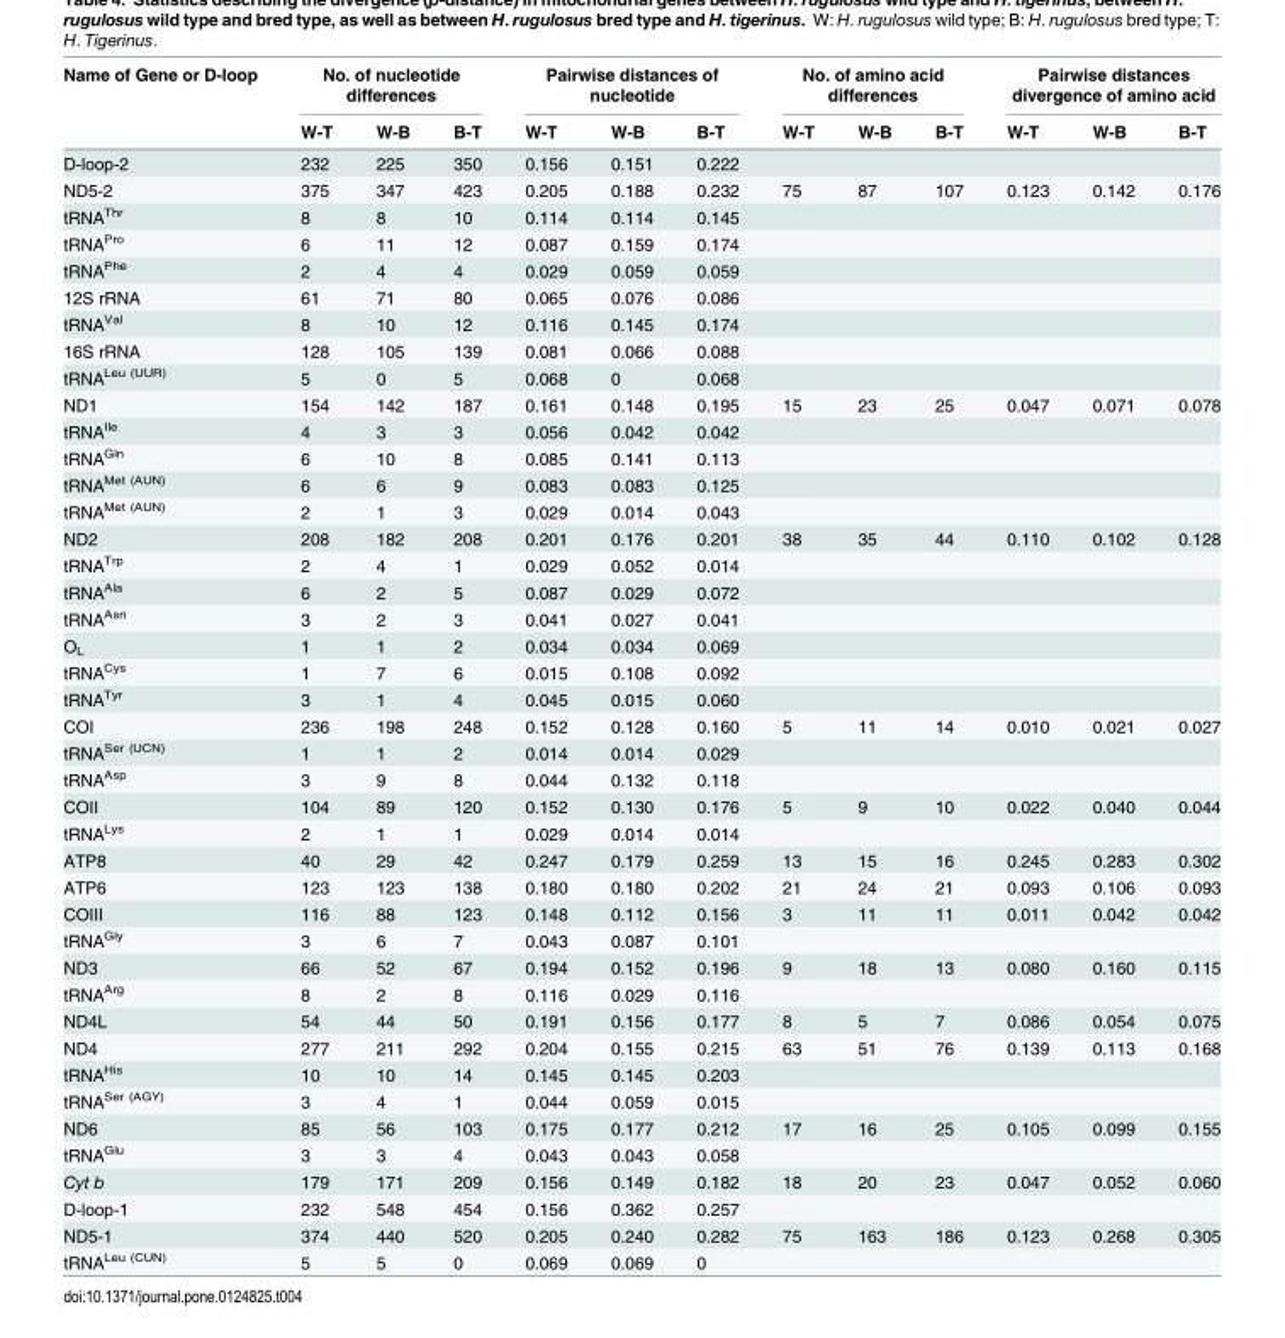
<table><thead><tr><td rowspan="2">Name of Gene or D-loop</td><td colspan="3">No. of nucleotide differences</td><td colspan="3">Pairwise distances of nucleotide</td><td colspan="3">No. of amino acid differences</td><td colspan="3">Pairwise distances divergence of amino acid</td></tr><tr><td>W-T</td><td>W-B</td><td>B-T</td><td>W-T</td><td>W-B</td><td>B-T</td><td>W-T</td><td>W-B</td><td>B-T</td><td>W-T</td><td>W-B</td><td>B-T</td></tr></thead><tbody><tr><td>D-loop-2</td><td>232</td><td>225</td><td>350</td><td>0.156</td><td>0.151</td><td>0.222</td><td></td><td></td><td></td><td></td><td></td><td></td></tr><tr><td>ND5-2</td><td>375</td><td>347</td><td>423</td><td>0.205</td><td>0.188</td><td>0.232</td><td>75</td><td>87</td><td>107</td><td>0.123</td><td>0.142</td><td>0.176</td></tr><tr><td>tRNA<sup>Thr</sup></td><td>8</td><td>8</td><td>10</td><td>0.114</td><td>0.114</td><td>0.145</td><td></td><td></td><td></td><td></td><td></td><td></td></tr><tr><td>tRNA<sup>Pro</sup></td><td>6</td><td>11</td><td>12</td><td>0.087</td><td>0.159</td><td>0.174</td><td></td><td></td><td></td><td></td><td></td><td></td></tr><tr><td>tRNA<sup>Phe</sup></td><td>2</td><td>4</td><td>4</td><td>0.029</td><td>0.059</td><td>0.059</td><td></td><td></td><td></td><td></td><td></td><td></td></tr><tr><td>12S rRNA</td><td>61</td><td>71</td><td>80</td><td>0.065</td><td>0.076</td><td>0.086</td><td></td><td></td><td></td><td></td><td></td><td></td></tr><tr><td>tRNA<sup>Val</sup></td><td>8</td><td>10</td><td>12</td><td>0.116</td><td>0.145</td><td>0.174</td><td></td><td></td><td></td><td></td><td></td><td></td></tr><tr><td>16S rRNA</td><td>128</td><td>105</td><td>139</td><td>0.081</td><td>0.066</td><td>0.088</td><td></td><td></td><td></td><td></td><td></td><td></td></tr><tr><td>tRNA<sup>Leu (UUR)</sup></td><td>5</td><td>0</td><td>5</td><td>0.068</td><td>0</td><td>0.068</td><td></td><td></td><td></td><td></td><td></td><td></td></tr><tr><td>ND1</td><td>154</td><td>142</td><td>187</td><td>0.161</td><td>0.148</td><td>0.195</td><td>15</td><td>23</td><td>25</td><td>0.047</td><td>0.071</td><td>0.078</td></tr><tr><td>tRNA<sup>Ile</sup></td><td>4</td><td>3</td><td>3</td><td>0.056</td><td>0.042</td><td>0.042</td><td></td><td></td><td></td><td></td><td></td><td></td></tr><tr><td>tRNA<sup>Gln</sup></td><td>6</td><td>10</td><td>8</td><td>0.085</td><td>0.141</td><td>0.113</td><td></td><td></td><td></td><td></td><td></td><td></td></tr><tr><td>tRNA<sup>Met (AUN)</sup></td><td>6</td><td>6</td><td>9</td><td>0.083</td><td>0.083</td><td>0.125</td><td></td><td></td><td></td><td></td><td></td><td></td></tr><tr><td>tRNA<sup>Met (AUN)</sup></td><td>2</td><td>1</td><td>3</td><td>0.029</td><td>0.014</td><td>0.043</td><td></td><td></td><td></td><td></td><td></td><td></td></tr><tr><td>ND2</td><td>208</td><td>182</td><td>208</td><td>0.201</td><td>0.176</td><td>0.201</td><td>38</td><td>35</td><td>44</td><td>0.110</td><td>0.102</td><td>0.128</td></tr><tr><td>tRNA<sup>Trp</sup></td><td>2</td><td>4</td><td>1</td><td>0.029</td><td>0.052</td><td>0.014</td><td></td><td></td><td></td><td></td><td></td><td></td></tr><tr><td>tRNA<sup>Ala</sup></td><td>6</td><td>2</td><td>5</td><td>0.087</td><td>0.029</td><td>0.072</td><td></td><td></td><td></td><td></td><td></td><td></td></tr><tr><td>tRNA<sup>Asn</sup></td><td>3</td><td>2</td><td>3</td><td>0.041</td><td>0.027</td><td>0.041</td><td></td><td></td><td></td><td></td><td></td><td></td></tr><tr><td>O<sub>L</sub></td><td>1</td><td>1</td><td>2</td><td>0.034</td><td>0.034</td><td>0.069</td><td></td><td></td><td></td><td></td><td></td><td></td></tr><tr><td>tRNA<sup>Cys</sup></td><td>1</td><td>7</td><td>6</td><td>0.015</td><td>0.108</td><td>0.092</td><td></td><td></td><td></td><td></td><td></td><td></td></tr><tr><td>tRNA<sup>Tyr</sup></td><td>3</td><td>1</td><td>4</td><td>0.045</td><td>0.015</td><td>0.060</td><td></td><td></td><td></td><td></td><td></td><td></td></tr><tr><td>COI</td><td>236</td><td>198</td><td>248</td><td>0.152</td><td>0.128</td><td>0.160</td><td>5</td><td>11</td><td>14</td><td>0.010</td><td>0.021</td><td>0.027</td></tr><tr><td>tRNA<sup>Ser (UCN)</sup></td><td>1</td><td>1</td><td>2</td><td>0.014</td><td>0.014</td><td>0.029</td><td></td><td></td><td></td><td></td><td></td><td></td></tr><tr><td>tRNA<sup>Asp</sup></td><td>3</td><td>9</td><td>8</td><td>0.044</td><td>0.132</td><td>0.118</td><td></td><td></td><td></td><td></td><td></td><td></td></tr><tr><td>COII</td><td>104</td><td>89</td><td>120</td><td>0.152</td><td>0.130</td><td>0.176</td><td>5</td><td>9</td><td>10</td><td>0.022</td><td>0.040</td><td>0.044</td></tr><tr><td>tRNA<sup>Lys</sup></td><td>2</td><td>1</td><td>1</td><td>0.029</td><td>0.014</td><td>0.014</td><td></td><td></td><td></td><td></td><td></td><td></td></tr><tr><td>ATP8</td><td>40</td><td>29</td><td>42</td><td>0.247</td><td>0.179</td><td>0.259</td><td>13</td><td>15</td><td>16</td><td>0.245</td><td>0.283</td><td>0.302</td></tr><tr><td>ATP6</td><td>123</td><td>123</td><td>138</td><td>0.180</td><td>0.180</td><td>0.202</td><td>21</td><td>24</td><td>21</td><td>0.093</td><td>0.106</td><td>0.093</td></tr><tr><td>COIII</td><td>116</td><td>88</td><td>123</td><td>0.148</td><td>0.112</td><td>0.156</td><td>3</td><td>11</td><td>11</td><td>0.011</td><td>0.042</td><td>0.042</td></tr><tr><td>tRNA<sup>Gly</sup></td><td>3</td><td>6</td><td>7</td><td>0.043</td><td>0.087</td><td>0.101</td><td></td><td></td><td></td><td></td><td></td><td></td></tr><tr><td>ND3</td><td>66</td><td>52</td><td>67</td><td>0.194</td><td>0.152</td><td>0.196</td><td>9</td><td>18</td><td>13</td><td>0.080</td><td>0.160</td><td>0.115</td></tr><tr><td>tRNA<sup>Arg</sup></td><td>8</td><td>2</td><td>8</td><td>0.116</td><td>0.029</td><td>0.116</td><td></td><td></td><td></td><td></td><td></td><td></td></tr><tr><td>ND4L</td><td>54</td><td>44</td><td>50</td><td>0.191</td><td>0.156</td><td>0.177</td><td>8</td><td>5</td><td>7</td><td>0.086</td><td>0.054</td><td>0.075</td></tr><tr><td>ND4</td><td>277</td><td>211</td><td>292</td><td>0.204</td><td>0.155</td><td>0.215</td><td>63</td><td>51</td><td>76</td><td>0.139</td><td>0.113</td><td>0.168</td></tr><tr><td>tRNA<sup>His</sup></td><td>10</td><td>10</td><td>14</td><td>0.145</td><td>0.145</td><td>0.203</td><td></td><td></td><td></td><td></td><td></td><td></td></tr><tr><td>tRNA<sup>Ser (AGY)</sup></td><td>3</td><td>4</td><td>1</td><td>0.044</td><td>0.059</td><td>0.015</td><td></td><td></td><td></td><td></td><td></td><td></td></tr><tr><td>ND6</td><td>85</td><td>56</td><td>103</td><td>0.175</td><td>0.177</td><td>0.212</td><td>17</td><td>16</td><td>25</td><td>0.105</td><td>0.099</td><td>0.155</td></tr><tr><td>tRNA<sup>Glu</sup></td><td>3</td><td>3</td><td>4</td><td>0.043</td><td>0.043</td><td>0.058</td><td></td><td></td><td></td><td></td><td></td><td></td></tr><tr><td>Cyt b</td><td>179</td><td>171</td><td>209</td><td>0.156</td><td>0.149</td><td>0.182</td><td>18</td><td>20</td><td>23</td><td>0.047</td><td>0.052</td><td>0.060</td></tr><tr><td>D-loop-1</td><td>232</td><td>548</td><td>454</td><td>0.156</td><td>0.362</td><td>0.257</td><td></td><td></td><td></td><td></td><td></td><td></td></tr><tr><td>ND5-1</td><td>374</td><td>440</td><td>520</td><td>0.205</td><td>0.240</td><td>0.282</td><td>75</td><td>163</td><td>186</td><td>0.123</td><td>0.268</td><td>0.305</td></tr><tr><td>tRNA<sup>Leu (CUN)</sup></td><td>5</td><td>5</td><td>0</td><td>0.069</td><td>0.069</td><td>0</td><td></td><td></td><td></td><td></td><td></td><td></td></tr></tbody></table>